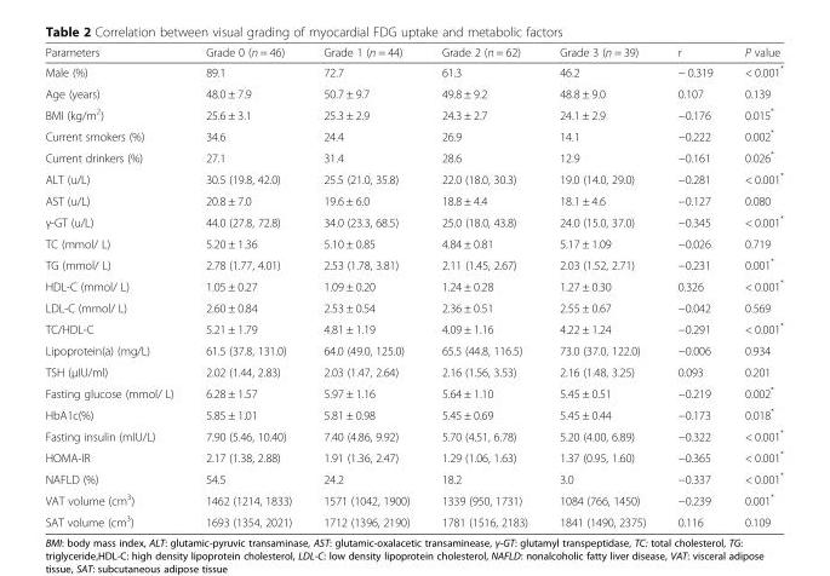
<table><thead><tr><td>Parameters</td><td>Grade 0 (n = 46)</td><td>Grade 1 (n = 44)</td><td>Grade 2 (n = 62)</td><td>Grade 3 (n = 39)</td><td>r</td><td>P value</td></tr></thead><tbody><tr><td>Male (%)</td><td>89.1</td><td>72.7</td><td>61.3</td><td>46.2</td><td>− 0.319</td><td>&lt; 0.001*</td></tr><tr><td>Age (years)</td><td>48.0 ± 7.9</td><td>50.7 ± 9.7</td><td>49.8 ± 9.2</td><td>48.8 ± 9.0</td><td>0.107</td><td>0.139</td></tr><tr><td>BMI (kg/m<sup>2</sup>)</td><td>25.6 ± 3.1</td><td>25.3 ± 2.9</td><td>24.3 ± 2.7</td><td>24.1 ± 2.9</td><td>−0.176</td><td>0.015*</td></tr><tr><td>Current smokers (%)</td><td>34.6</td><td>24.4</td><td>26.9</td><td>14.1</td><td>−0.222</td><td>0.002*</td></tr><tr><td>Current drinkers (%)</td><td>27.1</td><td>31.4</td><td>28.6</td><td>12.9</td><td>−0.161</td><td>0.026*</td></tr><tr><td>ALT (u/L)</td><td>30.5 (19.8, 42.0)</td><td>25.5 (21.0, 35.8)</td><td>22.0 (18.0, 30.3)</td><td>19.0 (14.0, 29.0)</td><td>−0.281</td><td>&lt; 0.001*</td></tr><tr><td>AST (u/L)</td><td>20.8 ± 7.0</td><td>19.6 ± 6.0</td><td>18.8 ± 4.4</td><td>18.1 ± 4.6</td><td>−0.127</td><td>0.080</td></tr><tr><td>γ-GT (u/L)</td><td>44.0 (27.8, 72.8)</td><td>34.0 (23.3, 68.5)</td><td>25.0 (18.0, 43.8)</td><td>24.0 (15.0, 37.0)</td><td>−0.345</td><td>&lt; 0.001*</td></tr><tr><td>TC (mmol/ L)</td><td>5.20 ± 1.36</td><td>5.10 ± 0.85</td><td>4.84 ± 0.81</td><td>5.17 ± 1.09</td><td>−0.026</td><td>0.719</td></tr><tr><td>TG (mmol/ L)</td><td>2.78 (1.77, 4.01)</td><td>2.53 (1.78, 3.81)</td><td>2.11 (1.45, 2.67)</td><td>2.03 (1.52, 2.71)</td><td>−0.231</td><td>0.001*</td></tr><tr><td>HDL-C (mmol/ L)</td><td>1.05 ± 0.27</td><td>1.09 ± 0.20</td><td>1.24 ± 0.28</td><td>1.27 ± 0.30</td><td>0.326</td><td>&lt; 0.001*</td></tr><tr><td>LDL-C (mmol/ L)</td><td>2.60 ± 0.84</td><td>2.53 ± 0.54</td><td>2.36 ± 0.51</td><td>2.55 ± 0.67</td><td>−0.042</td><td>0.569</td></tr><tr><td>TC/HDL-C</td><td>5.21 ± 1.79</td><td>4.81 ± 1.19</td><td>4.09 ± 1.16</td><td>4.22 ± 1.24</td><td>−0.291</td><td>&lt; 0.001*</td></tr><tr><td>Lipoprotein(a) (mg/L)</td><td>61.5 (37.8, 131.0)</td><td>64.0 (49.0, 125.0)</td><td>65.5 (44.8, 116.5)</td><td>73.0 (37.0, 122.0)</td><td>−0.006</td><td>0.934</td></tr><tr><td>TSH (μIU/ml)</td><td>2.02 (1.44, 2.83)</td><td>2.03 (1.47, 2.64)</td><td>2.16 (1.56, 3.53)</td><td>2.16 (1.48, 3.25)</td><td>0.093</td><td>0.201</td></tr><tr><td>Fasting glucose (mmol/ L)</td><td>6.28 ± 1.57</td><td>5.97 ± 1.16</td><td>5.64 ± 1.10</td><td>5.45 ± 0.51</td><td>−0.219</td><td>0.002*</td></tr><tr><td>HbA1c(%)</td><td>5.85 ± 1.01</td><td>5.81 ± 0.98</td><td>5.45 ± 0.69</td><td>5.45 ± 0.44</td><td>−0.173</td><td>0.018*</td></tr><tr><td>Fasting insulin (mIU/L)</td><td>7.90 (5.46, 10.40)</td><td>7.40 (4.86, 9.92)</td><td>5.70 (4.51, 6.78)</td><td>5.20 (4.00, 6.89)</td><td>−0.322</td><td>&lt; 0.001*</td></tr><tr><td>HOMA-IR</td><td>2.17 (1.38, 2.88)</td><td>1.91 (1.36, 2.47)</td><td>1.29 (1.06, 1.63)</td><td>1.37 (0.95, 1.60)</td><td>−0.365</td><td>&lt; 0.001*</td></tr><tr><td>NAFLD (%)</td><td>54.5</td><td>24.2</td><td>18.2</td><td>3.0</td><td>−0.337</td><td>&lt; 0.001*</td></tr><tr><td>VAT volume (cm<sup>3</sup>)</td><td>1462 (1214, 1833)</td><td>1571 (1042, 1900)</td><td>1339 (950, 1731)</td><td>1084 (766, 1450)</td><td>−0.239</td><td>0.001*</td></tr><tr><td>SAT volume (cm<sup>3</sup>)</td><td>1693 (1354, 2021)</td><td>1712 (1396, 2190)</td><td>1781 (1516, 2183)</td><td>1841 (1490, 2375)</td><td>0.116</td><td>0.109</td></tr></tbody></table>